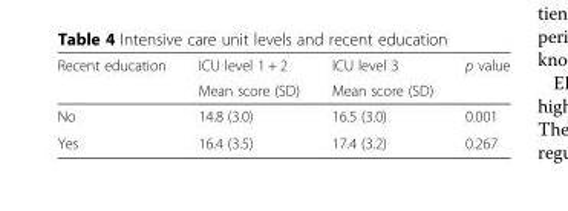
<table><thead><tr><td rowspan="2">Recent education</td><td rowspan="2">ICU level 1 + 2 Mean score (SD)</td><td rowspan="2">ICU level 3 Mean score (SD)</td><td rowspan="2">p value</td></tr><tr></tr></thead><tbody><tr><td>No</td><td>14.8 (3.0)</td><td>16.5 (3.0)</td><td>0.001</td></tr><tr><td>Yes</td><td>16.4 (3.5)</td><td>17.4 (3.2)</td><td>0.267</td></tr></tbody></table>